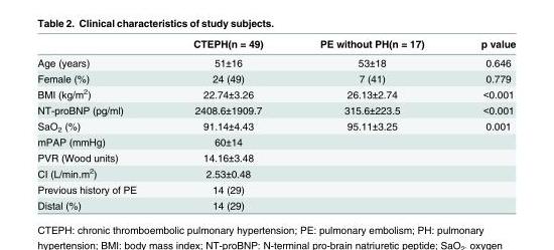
<table><thead><tr><td></td><td>CTEPH(n = 49)</td><td>PE without PH(n = 17)</td><td>p value</td></tr></thead><tbody><tr><td>Age (years)</td><td>51±16</td><td>53±18</td><td>0.646</td></tr><tr><td>Female (%)</td><td>24 (49)</td><td>7 (41)</td><td>0.779</td></tr><tr><td>BMI (kg/m<sup>2</sup>)</td><td>22.74±3.26</td><td>26.13±2.74</td><td>&lt;0.001</td></tr><tr><td>NT-proBNP (pg/ml)</td><td>2408.6±1909.7</td><td>315.6±223.5</td><td>&lt;0.001</td></tr><tr><td>SaO<sub>2</sub> (%)</td><td>91.14±4.43</td><td>95.11±3.25</td><td>0.001</td></tr><tr><td>mPAP (mmHg)</td><td>60±14</td><td></td><td></td></tr><tr><td>PVR (Wood units)</td><td>14.16±3.48</td><td></td><td></td></tr><tr><td>CI (L/min.m<sup>2</sup>)</td><td>2.53±0.48</td><td></td><td></td></tr><tr><td>Previous history of PE</td><td>14 (29)</td><td></td><td></td></tr><tr><td>Distal (%)</td><td>14 (29)</td><td></td><td></td></tr></tbody></table>